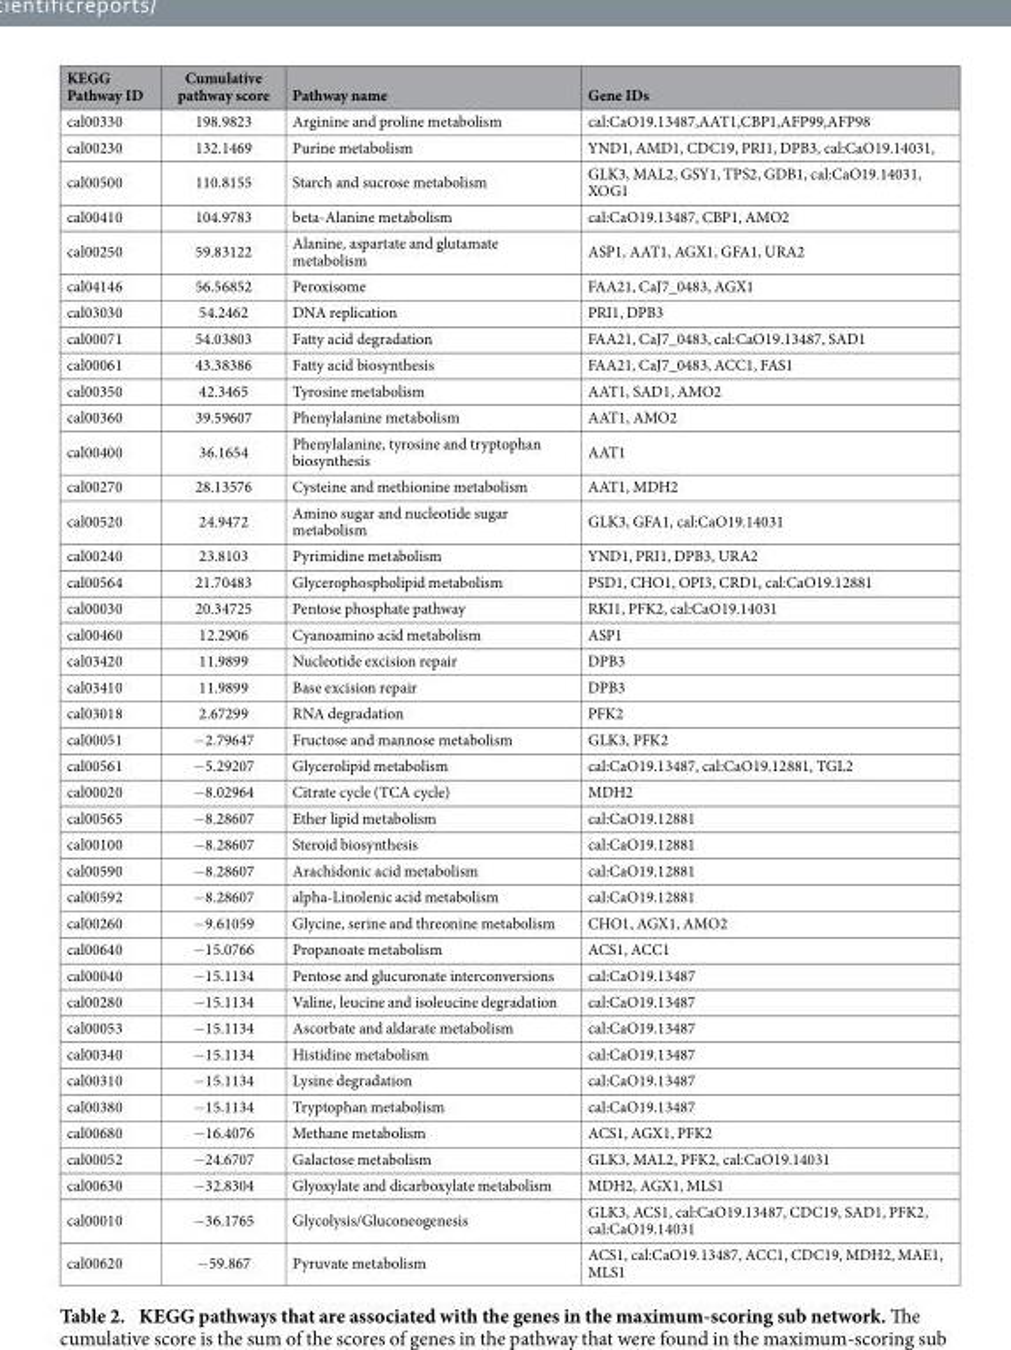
<table><thead><tr><td>KEGG Pathway ID</td><td>Cumulative pathway score</td><td>Pathway name</td><td>Gene IDs</td></tr></thead><tbody><tr><td>cal00330</td><td>198.9823</td><td>Arginine and proline metabolism</td><td>cal:CaO19.13487,AAT1,CBP1,AFP99,AFP98</td></tr><tr><td>cal00230</td><td>132.1469</td><td>Purine metabolism</td><td>YND1, AMD1, CDC19, PRI1, DPB3, cal:CaO19.14031,</td></tr><tr><td>cal00500</td><td>110.8155</td><td>Starch and sucrose metabolism</td><td>GLK3, MAL2, GSY1, TPS2, GDB1, cal:CaO19.14031, XOG1</td></tr><tr><td>cal00410</td><td>104.9783</td><td>beta-Alanine metabolism</td><td>cal:CaO19.13487, CBP1, AMO2</td></tr><tr><td>cal00250</td><td>59.83122</td><td>Alanine, aspartate and glutamate metabolism</td><td>ASP1, AAT1, AGX1, GFA1, URA2</td></tr><tr><td>cal04146</td><td>56.56852</td><td>Peroxisome</td><td>FAA21, CaJ7_0483, AGX1</td></tr><tr><td>cal03030</td><td>54.2462</td><td>DNA replication</td><td>PRI1, DPB3</td></tr><tr><td>cal00071</td><td>54.03803</td><td>Fatty acid degradation</td><td>FAA21, CaJ7_0483, cal:CaO19.13487, SAD1</td></tr><tr><td>cal00061</td><td>43.38386</td><td>Fatty acid biosynthesis</td><td>FAA21, CaJ7_0483, ACC1, FAS1</td></tr><tr><td>cal00350</td><td>42.3465</td><td>Tyrosine metabolism</td><td>AAT1, SAD1, AMO2</td></tr><tr><td>cal00360</td><td>39.59607</td><td>Phenylalanine metabolism</td><td>AAT1, AMO2</td></tr><tr><td>cal00400</td><td>36.1654</td><td>Phenylalanine, tyrosine and tryptophan biosynthesis</td><td>AAT1</td></tr><tr><td>cal00270</td><td>28.13576</td><td>Cysteine and methionine metabolism</td><td>AAT1, MDH2</td></tr><tr><td>cal00520</td><td>24.9472</td><td>Amino sugar and nucleotide sugar metabolism</td><td>GLK3, GFA1, cal:CaO19.14031</td></tr><tr><td>cal00240</td><td>23.8103</td><td>Pyrimidine metabolism</td><td>YND1, PRI1, DPB3, URA2</td></tr><tr><td>cal00564</td><td>21.70483</td><td>Glycerophospholipid metabolism</td><td>PSD1, CHO1, OPI3, CRD1, cal:CaO19.12881</td></tr><tr><td>cal00030</td><td>20.34725</td><td>Pentose phosphate pathway</td><td>RKI1, PFK2, cal:CaO19.14031</td></tr><tr><td>cal00460</td><td>12.2906</td><td>Cyanoamino acid metabolism</td><td>ASP1</td></tr><tr><td>cal03420</td><td>11.9899</td><td>Nucleotide excision repair</td><td>DPB3</td></tr><tr><td>cal03410</td><td>11.9899</td><td>Base excision repair</td><td>DPB3</td></tr><tr><td>cal03018</td><td>2.67299</td><td>RNA degradation</td><td>PFK2</td></tr><tr><td>cal00051</td><td>− 2.79647</td><td>Fructose and mannose metabolism</td><td>GLK3, PFK2</td></tr><tr><td>cal00561</td><td>− 5.29207</td><td>Glycerolipid metabolism</td><td>cal:CaO19.13487, cal:CaO19.12881, TGL2</td></tr><tr><td>cal00020</td><td>− 8.02964</td><td>Citrate cycle (TCA cycle)</td><td>MDH2</td></tr><tr><td>cal00565</td><td>− 8.28607</td><td>Ether lipid metabolism</td><td>cal:CaO19.12881</td></tr><tr><td>cal00100</td><td>− 8.28607</td><td>Steroid biosynthesis</td><td>cal:CaO19.12881</td></tr><tr><td>cal00590</td><td>− 8.28607</td><td>Arachidonic acid metabolism</td><td>cal:CaO19.12881</td></tr><tr><td>cal00592</td><td>− 8.28607</td><td>alpha-Linolenic acid metabolism</td><td>cal:CaO19.12881</td></tr><tr><td>cal00260</td><td>− 9.61059</td><td>Glycine, serine and threonine metabolism</td><td>CHO1, AGX1, AMO2</td></tr><tr><td>cal00640</td><td>− 15.0766</td><td>Propanoate metabolism</td><td>ACS1, ACC1</td></tr><tr><td>cal00040</td><td>− 15.1134</td><td>Pentose and glucuronate interconversions</td><td>cal:CaO19.13487</td></tr><tr><td>cal00280</td><td>− 15.1134</td><td>Valine, leucine and isoleucine degradation</td><td>cal:CaO19.13487</td></tr><tr><td>cal00053</td><td>− 15.1134</td><td>Ascorbate and aldarate metabolism</td><td>cal:CaO19.13487</td></tr><tr><td>cal00340</td><td>− 15.1134</td><td>Histidine metabolism</td><td>cal:CaO19.13487</td></tr><tr><td>cal00310</td><td>− 15.1134</td><td>Lysine degradation</td><td>cal:CaO19.13487</td></tr><tr><td>cal00380</td><td>− 15.1134</td><td>Tryptophan metabolism</td><td>cal:CaO19.13487</td></tr><tr><td>cal00680</td><td>− 16.4076</td><td>Methane metabolism</td><td>ACS1, AGX1, PFK2</td></tr><tr><td>cal00052</td><td>− 24.6707</td><td>Galactose metabolism</td><td>GLK3, MAL2, PFK2, cal:CaO19.14031</td></tr><tr><td>cal00630</td><td>− 32.8304</td><td>Glyoxylate and dicarboxylate metabolism</td><td>MDH2, AGX1, MLS1</td></tr><tr><td>cal00010</td><td>− 36.1765</td><td>Glycolysis/Gluconeogenesis</td><td>GLK3, ACS1, cal:CaO19.13487, CDC19, SAD1, PFK2, cal:CaO19.14031</td></tr><tr><td>cal00620</td><td>− 59.867</td><td>Pyruvate metabolism</td><td>ACS1, cal:CaO19.13487, ACC1, CDC19, MDH2, MAE1, MLS1</td></tr></tbody></table>